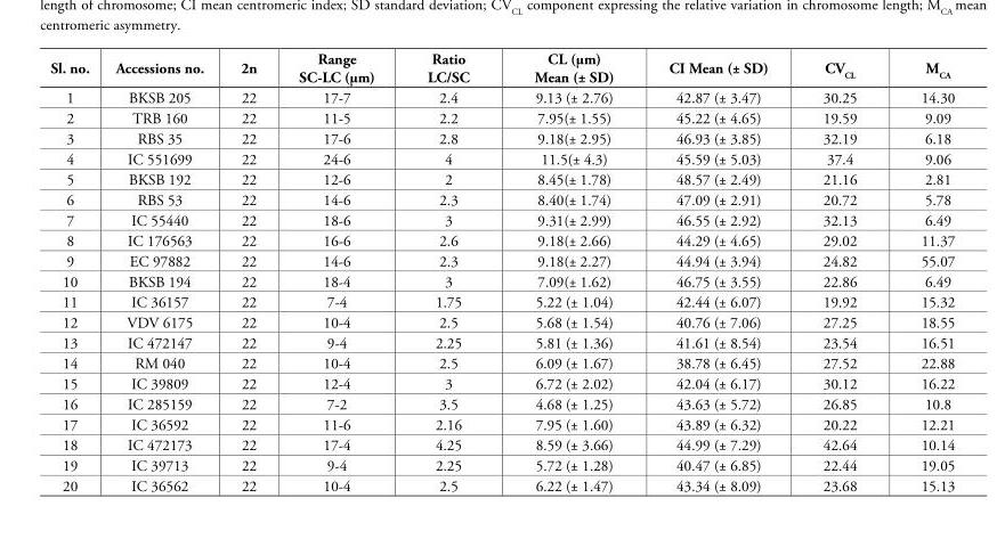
<table><thead><tr><td>Sl. no.</td><td>Accessions no.</td><td>2n</td><td>Range SC-LC (μm)</td><td>Ratio LC/SC</td><td>CL (μm) Mean (± SD)</td><td>CI Mean (± SD)</td><td>CV<sub>CL</sub></td><td>M<sub>CA</sub></td></tr></thead><tbody><tr><td>1</td><td>BKSB 205</td><td>22</td><td>17-7</td><td>2.4</td><td>9.13 (± 2.76)</td><td>42.87 (± 3.47)</td><td>30.25</td><td>14.30</td></tr><tr><td>2</td><td>TRB 160</td><td>22</td><td>11-5</td><td>2.2</td><td>7.95(± 1.55)</td><td>45.22 (± 4.65)</td><td>19.59</td><td>9.09</td></tr><tr><td>3</td><td>RBS 35</td><td>22</td><td>17-6</td><td>2.8</td><td>9.18(± 2.95)</td><td>46.93 (± 3.85)</td><td>32.19</td><td>6.18</td></tr><tr><td>4</td><td>IC 551699</td><td>22</td><td>24-6</td><td>4</td><td>11.5(± 4.3)</td><td>45.59 (± 5.03)</td><td>37.4</td><td>9.06</td></tr><tr><td>5</td><td>BKSB 192</td><td>22</td><td>12-6</td><td>2</td><td>8.45(± 1.78)</td><td>48.57 (± 2.49)</td><td>21.16</td><td>2.81</td></tr><tr><td>6</td><td>RBS 53</td><td>22</td><td>14-6</td><td>2.3</td><td>8.40(± 1.74)</td><td>47.09 (± 2.91)</td><td>20.72</td><td>5.78</td></tr><tr><td>7</td><td>IC 55440</td><td>22</td><td>18-6</td><td>3</td><td>9.31(± 2.99)</td><td>46.55 (± 2.92)</td><td>32.13</td><td>6.49</td></tr><tr><td>8</td><td>IC 176563</td><td>22</td><td>16-6</td><td>2.6</td><td>9.18(± 2.66)</td><td>44.29 (± 4.65)</td><td>29.02</td><td>11.37</td></tr><tr><td>9</td><td>EC 97882</td><td>22</td><td>14-6</td><td>2.3</td><td>9.18(± 2.27)</td><td>44.94 (± 3.94)</td><td>24.82</td><td>55.07</td></tr><tr><td>10</td><td>BKSB 194</td><td>22</td><td>18-4</td><td>3</td><td>7.09(± 1.62)</td><td>46.75 (± 3.55)</td><td>22.86</td><td>6.49</td></tr><tr><td>11</td><td>IC 36157</td><td>22</td><td>7-4</td><td>1.75</td><td>5.22 (± 1.04)</td><td>42.44 (± 6.07)</td><td>19.92</td><td>15.32</td></tr><tr><td>12</td><td>VDV 6175</td><td>22</td><td>10-4</td><td>2.5</td><td>5.68 (± 1.54)</td><td>40.76 (± 7.06)</td><td>27.25</td><td>18.55</td></tr><tr><td>13</td><td>IC 472147</td><td>22</td><td>9-4</td><td>2.25</td><td>5.81 (± 1.36)</td><td>41.61 (± 8.54)</td><td>23.54</td><td>16.51</td></tr><tr><td>14</td><td>RM 040</td><td>22</td><td>10-4</td><td>2.5</td><td>6.09 (± 1.67)</td><td>38.78 (± 6.45)</td><td>27.52</td><td>22.88</td></tr><tr><td>15</td><td>IC 39809</td><td>22</td><td>12-4</td><td>3</td><td>6.72 (± 2.02)</td><td>42.04 (± 6.17)</td><td>30.12</td><td>16.22</td></tr><tr><td>16</td><td>IC 285159</td><td>22</td><td>7-2</td><td>3.5</td><td>4.68 (± 1.25)</td><td>43.63 (± 5.72)</td><td>26.85</td><td>10.8</td></tr><tr><td>17</td><td>IC 36592</td><td>22</td><td>11-6</td><td>2.16</td><td>7.95 (± 1.60)</td><td>43.89 (± 6.32)</td><td>20.22</td><td>12.21</td></tr><tr><td>18</td><td>IC 472173</td><td>22</td><td>17-4</td><td>4.25</td><td>8.59 (± 3.66)</td><td>44.99 (± 7.29)</td><td>42.64</td><td>10.14</td></tr><tr><td>19</td><td>IC 39713</td><td>22</td><td>9-4</td><td>2.25</td><td>5.72 (± 1.28)</td><td>40.47 (± 6.85)</td><td>22.44</td><td>19.05</td></tr><tr><td>20</td><td>IC 36562</td><td>22</td><td>10-4</td><td>2.5</td><td>6.22 (± 1.47)</td><td>43.34 (± 8.09)</td><td>23.68</td><td>15.13</td></tr></tbody></table>